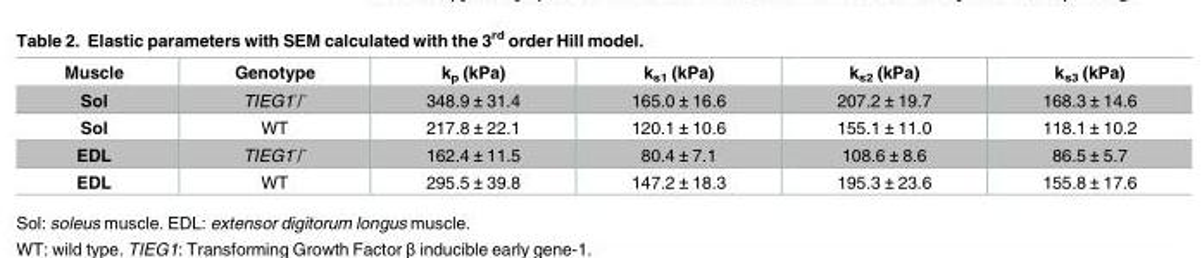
<table><thead><tr><td>Muscle</td><td>Genotype</td><td>k<sub>p</sub> (kPa)</td><td>k<sub>s1</sub> (kPa)</td><td>k<sub>s2</sub> (kPa)</td><td>k<sub>s3</sub> (kPa)</td></tr></thead><tbody><tr><td>Sol</td><td>TIEG1<sup>-</sup>/<sup>-</sup></td><td>348.9 ± 31.4</td><td>165.0 ± 16.6</td><td>207.2 ± 19.7</td><td>168.3 ± 14.6</td></tr><tr><td>Sol</td><td>WT</td><td>217.8 ± 22.1</td><td>120.1 ± 10.6</td><td>155.1 ± 11.0</td><td>118.1 ± 10.2</td></tr><tr><td>EDL</td><td>TIEG1<sup>-</sup>/<sup>-</sup></td><td>162.4 ± 11.5</td><td>80.4 ± 7.1</td><td>108.6 ± 8.6</td><td>86.5 ± 5.7</td></tr><tr><td>EDL</td><td>WT</td><td>295.5 ± 39.8</td><td>147.2 ± 18.3</td><td>195.3 ± 23.6</td><td>155.8 ± 17.6</td></tr></tbody></table>